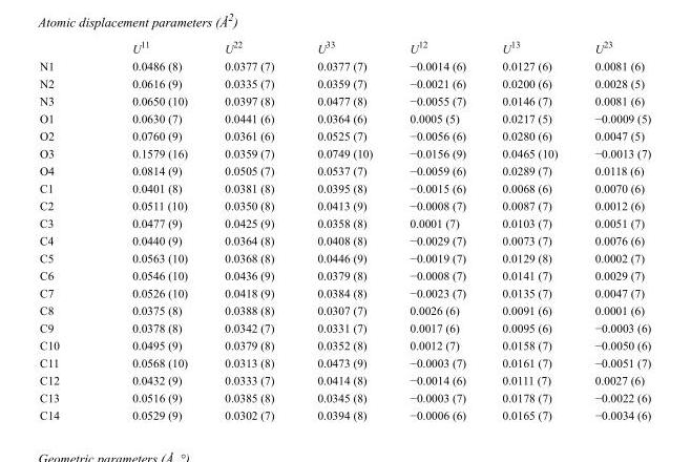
<table><thead><tr><td></td><td>U<sup>11</sup></td><td>U<sup>22</sup></td><td>U<sup>33</sup></td><td>U<sup>12</sup></td><td>U<sup>13</sup></td><td>U<sup>23</sup></td></tr></thead><tbody><tr><td>N1</td><td>0.0486 (8)</td><td>0.0377 (7)</td><td>0.0377 (7)</td><td>−0.0014 (6)</td><td>0.0127 (6)</td><td>0.0081 (6)</td></tr><tr><td>N2</td><td>0.0616 (9)</td><td>0.0335 (7)</td><td>0.0359 (7)</td><td>−0.0021 (6)</td><td>0.0200 (6)</td><td>0.0028 (5)</td></tr><tr><td>N3</td><td>0.0650 (10)</td><td>0.0397 (8)</td><td>0.0477 (8)</td><td>−0.0055 (7)</td><td>0.0146 (7)</td><td>0.0081 (6)</td></tr><tr><td>O1</td><td>0.0630 (7)</td><td>0.0441 (6)</td><td>0.0364 (6)</td><td>0.0005 (5)</td><td>0.0217 (5)</td><td>−0.0009 (5)</td></tr><tr><td>O2</td><td>0.0760 (9)</td><td>0.0361 (6)</td><td>0.0525 (7)</td><td>−0.0056 (6)</td><td>0.0280 (6)</td><td>0.0047 (5)</td></tr><tr><td>O3</td><td>0.1579 (16)</td><td>0.0359 (7)</td><td>0.0749 (10)</td><td>−0.0156 (9)</td><td>0.0465 (10)</td><td>−0.0013 (7)</td></tr><tr><td>O4</td><td>0.0814 (9)</td><td>0.0505 (7)</td><td>0.0537 (7)</td><td>−0.0059 (6)</td><td>0.0289 (7)</td><td>0.0118 (6)</td></tr><tr><td>C1</td><td>0.0401 (8)</td><td>0.0381 (8)</td><td>0.0395 (8)</td><td>−0.0015 (6)</td><td>0.0068 (6)</td><td>0.0070 (6)</td></tr><tr><td>C2</td><td>0.0511 (10)</td><td>0.0350 (8)</td><td>0.0413 (9)</td><td>−0.0008 (7)</td><td>0.0087 (7)</td><td>0.0012 (6)</td></tr><tr><td>C3</td><td>0.0477 (9)</td><td>0.0425 (9)</td><td>0.0358 (8)</td><td>0.0001 (7)</td><td>0.0103 (7)</td><td>0.0051 (7)</td></tr><tr><td>C4</td><td>0.0440 (9)</td><td>0.0364 (8)</td><td>0.0408 (8)</td><td>−0.0029 (7)</td><td>0.0073 (7)</td><td>0.0076 (6)</td></tr><tr><td>C5</td><td>0.0563 (10)</td><td>0.0368 (8)</td><td>0.0446 (9)</td><td>−0.0019 (7)</td><td>0.0129 (8)</td><td>0.0002 (7)</td></tr><tr><td>C6</td><td>0.0546 (10)</td><td>0.0436 (9)</td><td>0.0379 (8)</td><td>−0.0008 (7)</td><td>0.0141 (7)</td><td>0.0029 (7)</td></tr><tr><td>C7</td><td>0.0526 (10)</td><td>0.0418 (9)</td><td>0.0384 (8)</td><td>−0.0023 (7)</td><td>0.0135 (7)</td><td>0.0047 (7)</td></tr><tr><td>C8</td><td>0.0375 (8)</td><td>0.0388 (8)</td><td>0.0307 (7)</td><td>0.0026 (6)</td><td>0.0091 (6)</td><td>0.0001 (6)</td></tr><tr><td>C9</td><td>0.0378 (8)</td><td>0.0342 (7)</td><td>0.0331 (7)</td><td>0.0017 (6)</td><td>0.0095 (6)</td><td>−0.0003 (6)</td></tr><tr><td>C10</td><td>0.0495 (9)</td><td>0.0379 (8)</td><td>0.0352 (8)</td><td>0.0012 (7)</td><td>0.0158 (7)</td><td>−0.0050 (6)</td></tr><tr><td>C11</td><td>0.0568 (10)</td><td>0.0313 (8)</td><td>0.0473 (9)</td><td>−0.0003 (7)</td><td>0.0161 (7)</td><td>−0.0051 (7)</td></tr><tr><td>C12</td><td>0.0432 (9)</td><td>0.0333 (7)</td><td>0.0414 (8)</td><td>−0.0014 (6)</td><td>0.0111 (7)</td><td>0.0027 (6)</td></tr><tr><td>C13</td><td>0.0516 (9)</td><td>0.0385 (8)</td><td>0.0345 (8)</td><td>−0.0003 (7)</td><td>0.0178 (7)</td><td>−0.0022 (6)</td></tr><tr><td>C14</td><td>0.0529 (9)</td><td>0.0302 (7)</td><td>0.0394 (8)</td><td>−0.0006 (6)</td><td>0.0165 (7)</td><td>−0.0034 (6)</td></tr></tbody></table>